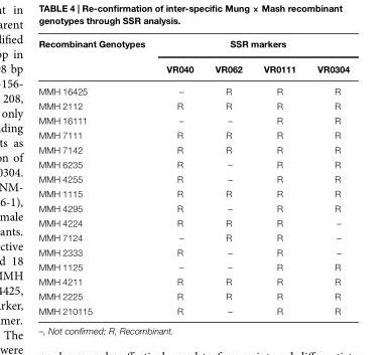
<table><thead><tr><td rowspan="2">Recombinant Genotypes</td><td colspan="4">SSR markers</td></tr><tr><td>VR040</td><td>VR062</td><td>VR0111</td><td>VR0304</td></tr></thead><tbody><tr><td>MMH 16425</td><td>–</td><td>R</td><td>R</td><td>R</td></tr><tr><td>MMH 2112</td><td>R</td><td>R</td><td>R</td><td>R</td></tr><tr><td>MMH 16111</td><td>–</td><td>–</td><td>R</td><td>R</td></tr><tr><td>MMH 7111</td><td>R</td><td>R</td><td>R</td><td>R</td></tr><tr><td>MMH 7142</td><td>R</td><td>R</td><td>R</td><td>R</td></tr><tr><td>MMH 6235</td><td>R</td><td>–</td><td>R</td><td>R</td></tr><tr><td>MMH 4255</td><td>R</td><td>–</td><td>R</td><td>R</td></tr><tr><td>MMH 1115</td><td>R</td><td>R</td><td>R</td><td>R</td></tr><tr><td>MMH 4295</td><td>R</td><td>–</td><td>R</td><td>R</td></tr><tr><td>MMH 4224</td><td>R</td><td>R</td><td>R</td><td>–</td></tr><tr><td>MMH 7124</td><td>–</td><td>R</td><td>R</td><td>–</td></tr><tr><td>MMH 2333</td><td>R</td><td>–</td><td>R</td><td>–</td></tr><tr><td>MMH 1125</td><td>–</td><td>–</td><td>R</td><td>R</td></tr><tr><td>MMH 4211</td><td>R</td><td>R</td><td>R</td><td>R</td></tr><tr><td>MMH 2225</td><td>R</td><td>R</td><td>R</td><td>R</td></tr><tr><td>MMH 210115</td><td>R</td><td>–</td><td>R</td><td>R</td></tr></tbody></table>